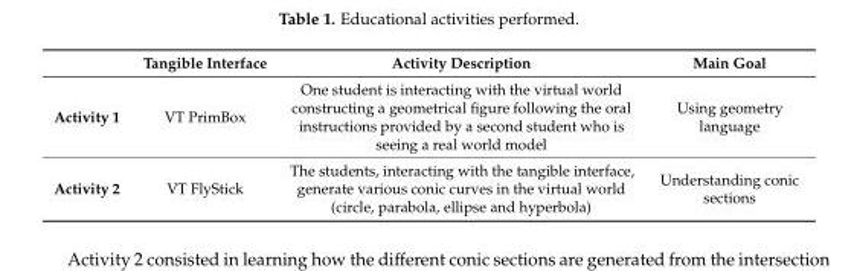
<table><thead><tr><td></td><td>Tangible Interface</td><td>Activity Description</td><td>Main Goal</td></tr></thead><tbody><tr><td>Activity 1</td><td>VT PrimBox</td><td>One student is interacting with the virtual world constructing a geometrical figure following the oral instructions provided by a second student who is seeing a real world model</td><td>Using geometry language</td></tr><tr><td>Activity 2</td><td>VT FlyStick</td><td>The students, interacting with the tangible interface, generate various conic curves in the virtual world (circle, parabola, ellipse and hyperbola)</td><td>Understanding conic sections</td></tr></tbody></table>